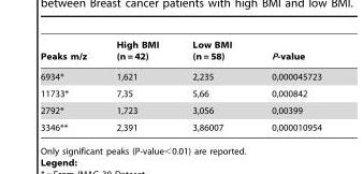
<table><thead><tr><td>Peaks m/z</td><td>High BMI (n = 42)</td><td>Low BMI (n = 58)</td><td>P-value</td></tr></thead><tbody><tr><td>6934*</td><td>1,621</td><td>2,235</td><td>0,000045723</td></tr><tr><td>11733*</td><td>7,35</td><td>5,66</td><td>0,000842</td></tr><tr><td>2792*</td><td>1,723</td><td>3,056</td><td>0,00399</td></tr><tr><td>3346**</td><td>2,391</td><td>3,86007</td><td>0,000010954</td></tr></tbody></table>